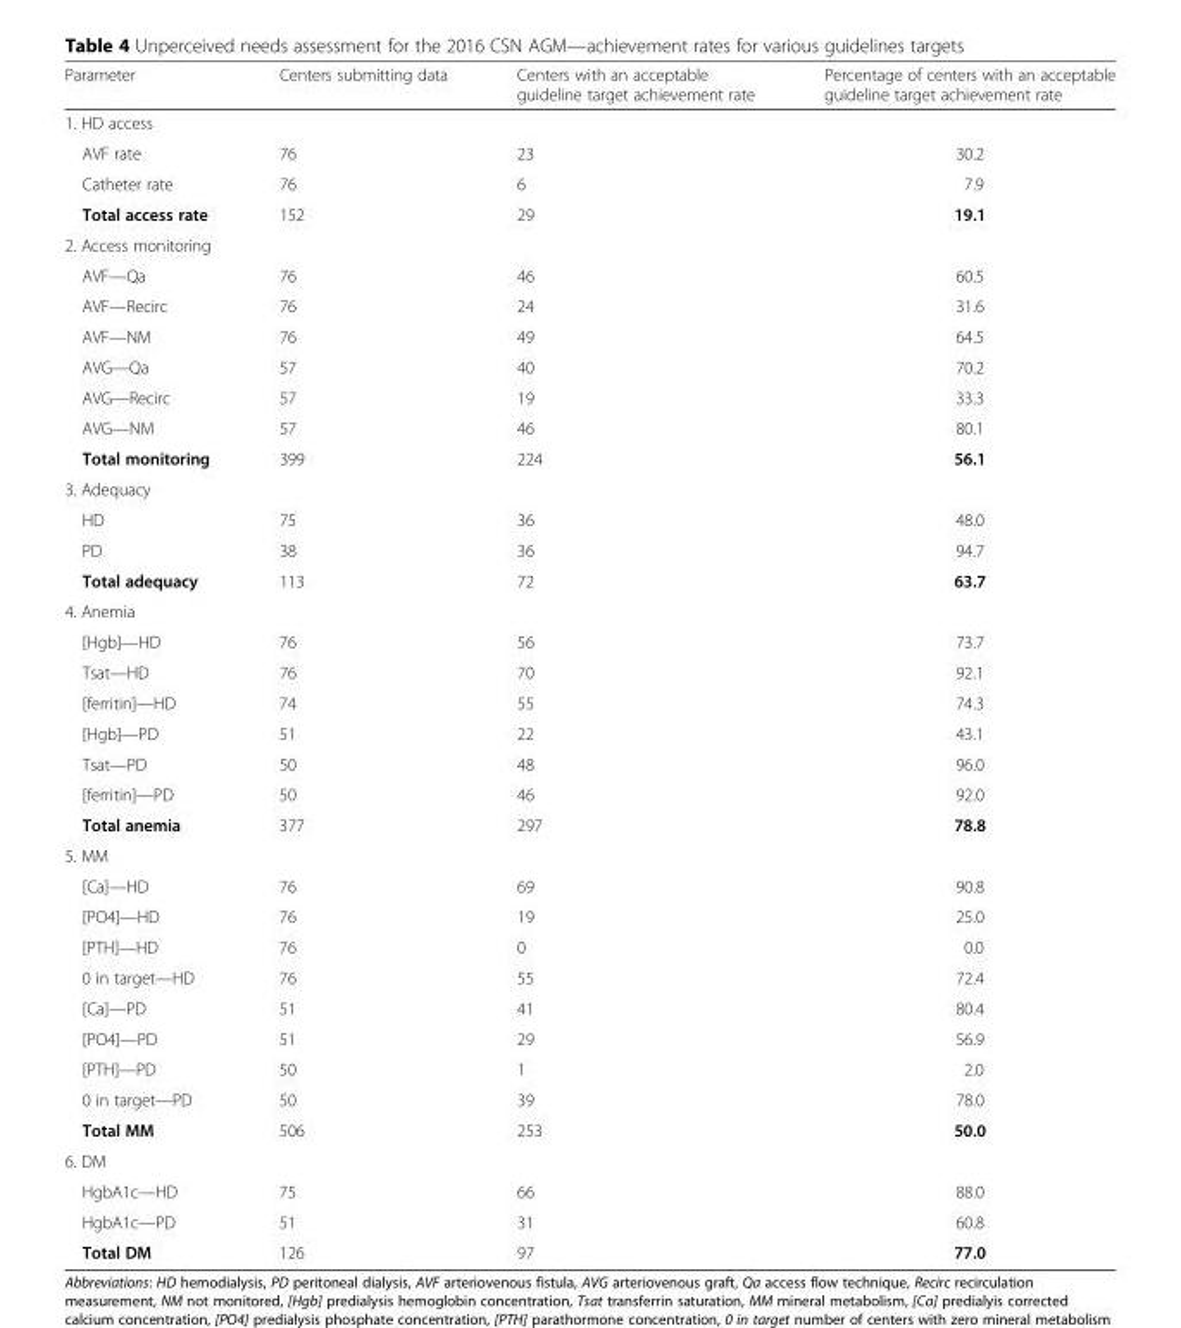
<table><thead><tr><td>Parameter</td><td>Centers submitting data</td><td>Centers with an acceptable guideline target achievement rate</td><td>Percentage of centers with an acceptable guideline target achievement rate</td></tr></thead><tbody><tr><td colspan="4">1. HD access</td></tr><tr><td>AVF rate</td><td>76</td><td>23</td><td>30.2</td></tr><tr><td>Catheter rate</td><td>76</td><td>6</td><td>7.9</td></tr><tr><td>Total access rate</td><td>152</td><td>29</td><td>19.1</td></tr><tr><td colspan="4">2. Access monitoring</td></tr><tr><td>AVF—Qa</td><td>76</td><td>46</td><td>60.5</td></tr><tr><td>AVF—Recirc</td><td>76</td><td>24</td><td>31.6</td></tr><tr><td>AVF—NM</td><td>76</td><td>49</td><td>64.5</td></tr><tr><td>AVG—Qa</td><td>57</td><td>40</td><td>70.2</td></tr><tr><td>AVG—Recirc</td><td>57</td><td>19</td><td>33.3</td></tr><tr><td>AVG—NM</td><td>57</td><td>46</td><td>80.1</td></tr><tr><td>Total monitoring</td><td>399</td><td>224</td><td>56.1</td></tr><tr><td colspan="4">3. Adequacy</td></tr><tr><td>HD</td><td>75</td><td>36</td><td>48.0</td></tr><tr><td>PD</td><td>38</td><td>36</td><td>94.7</td></tr><tr><td>Total adequacy</td><td>113</td><td>72</td><td>63.7</td></tr><tr><td colspan="4">4. Anemia</td></tr><tr><td>[Hgb]—HD</td><td>76</td><td>56</td><td>73.7</td></tr><tr><td>Tsat—HD</td><td>76</td><td>70</td><td>92.1</td></tr><tr><td>[ferritin]—HD</td><td>74</td><td>55</td><td>74.3</td></tr><tr><td>[Hgb]—PD</td><td>51</td><td>22</td><td>43.1</td></tr><tr><td>Tsat—PD</td><td>50</td><td>48</td><td>96.0</td></tr><tr><td>[ferritin]—PD</td><td>50</td><td>46</td><td>92.0</td></tr><tr><td>Total anemia</td><td>377</td><td>297</td><td>78.8</td></tr><tr><td colspan="4">5. MM</td></tr><tr><td>[Ca]—HD</td><td>76</td><td>69</td><td>90.8</td></tr><tr><td>[PO4]—HD</td><td>76</td><td>19</td><td>25.0</td></tr><tr><td>[PTH]—HD</td><td>76</td><td>0</td><td>0.0</td></tr><tr><td>0 in target—HD</td><td>76</td><td>55</td><td>72.4</td></tr><tr><td>[Ca]—PD</td><td>51</td><td>41</td><td>80.4</td></tr><tr><td>[PO4]—PD</td><td>51</td><td>29</td><td>56.9</td></tr><tr><td>[PTH]—PD</td><td>50</td><td>1</td><td>2.0</td></tr><tr><td>0 in target—PD</td><td>50</td><td>39</td><td>78.0</td></tr><tr><td>Total MM</td><td>506</td><td>253</td><td>50.0</td></tr><tr><td colspan="4">6. DM</td></tr><tr><td>HgbA1c—HD</td><td>75</td><td>66</td><td>88.0</td></tr><tr><td>HgbA1c—PD</td><td>51</td><td>31</td><td>60.8</td></tr><tr><td>Total DM</td><td>126</td><td>97</td><td>77.0</td></tr></tbody></table>